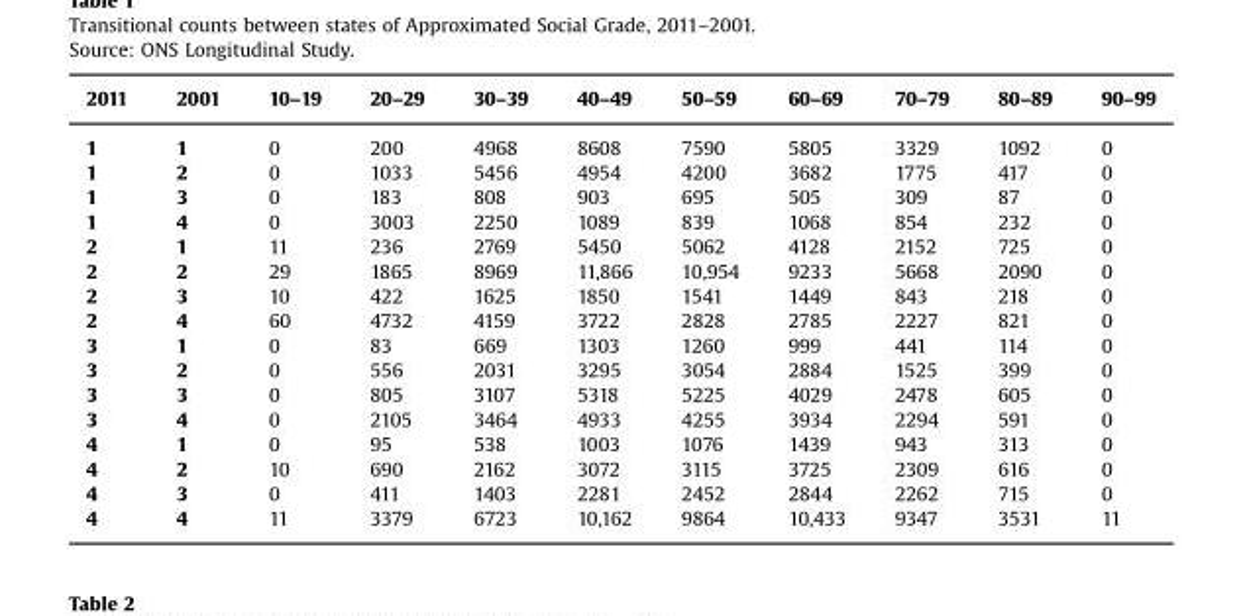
<table><thead><tr><td>2011</td><td>2001</td><td>10–19</td><td>20–29</td><td>30–39</td><td>40–49</td><td>50–59</td><td>60–69</td><td>70–79</td><td>80–89</td><td>90–99</td></tr></thead><tbody><tr><td>1</td><td>1</td><td>0</td><td>200</td><td>4968</td><td>8608</td><td>7590</td><td>5805</td><td>3329</td><td>1092</td><td>0</td></tr><tr><td>1</td><td>2</td><td>0</td><td>1033</td><td>5456</td><td>4954</td><td>4200</td><td>3682</td><td>1775</td><td>417</td><td>0</td></tr><tr><td>1</td><td>3</td><td>0</td><td>183</td><td>808</td><td>903</td><td>695</td><td>505</td><td>309</td><td>87</td><td>0</td></tr><tr><td>1</td><td>4</td><td>0</td><td>3003</td><td>2250</td><td>1089</td><td>839</td><td>1068</td><td>854</td><td>232</td><td>0</td></tr><tr><td>2</td><td>1</td><td>11</td><td>236</td><td>2769</td><td>5450</td><td>5062</td><td>4128</td><td>2152</td><td>725</td><td>0</td></tr><tr><td>2</td><td>2</td><td>29</td><td>1865</td><td>8969</td><td>11,866</td><td>10,954</td><td>9233</td><td>5668</td><td>2090</td><td>0</td></tr><tr><td>2</td><td>3</td><td>10</td><td>422</td><td>1625</td><td>1850</td><td>1541</td><td>1449</td><td>843</td><td>218</td><td>0</td></tr><tr><td>2</td><td>4</td><td>60</td><td>4732</td><td>4159</td><td>3722</td><td>2828</td><td>2785</td><td>2227</td><td>821</td><td>0</td></tr><tr><td>3</td><td>1</td><td>0</td><td>83</td><td>669</td><td>1303</td><td>1260</td><td>999</td><td>441</td><td>114</td><td>0</td></tr><tr><td>3</td><td>2</td><td>0</td><td>556</td><td>2031</td><td>3295</td><td>3054</td><td>2884</td><td>1525</td><td>399</td><td>0</td></tr><tr><td>3</td><td>3</td><td>0</td><td>805</td><td>3107</td><td>5318</td><td>5225</td><td>4029</td><td>2478</td><td>605</td><td>0</td></tr><tr><td>3</td><td>4</td><td>0</td><td>2105</td><td>3464</td><td>4933</td><td>4255</td><td>3934</td><td>2294</td><td>591</td><td>0</td></tr><tr><td>4</td><td>1</td><td>0</td><td>95</td><td>538</td><td>1003</td><td>1076</td><td>1439</td><td>943</td><td>313</td><td>0</td></tr><tr><td>4</td><td>2</td><td>10</td><td>690</td><td>2162</td><td>3072</td><td>3115</td><td>3725</td><td>2309</td><td>616</td><td>0</td></tr><tr><td>4</td><td>3</td><td>0</td><td>411</td><td>1403</td><td>2281</td><td>2452</td><td>2844</td><td>2262</td><td>715</td><td>0</td></tr><tr><td>4</td><td>4</td><td>11</td><td>3379</td><td>6723</td><td>10,162</td><td>9864</td><td>10,433</td><td>9347</td><td>3531</td><td>11</td></tr></tbody></table>